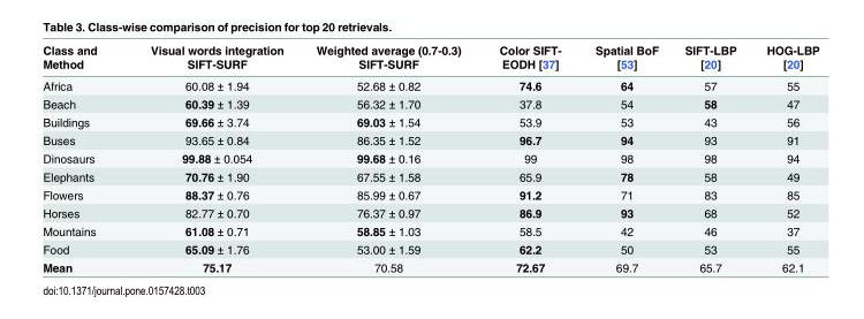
<table><thead><tr><td>Class and Method</td><td>Visual words integration SIFT-SURF</td><td>Weighted average (0.7-0.3) SIFT-SURF</td><td>Color SIFT- EODH [37]</td><td>Spatial BoF [53]</td><td>SIFT-LBP [20]</td><td>HOG-LBP [20]</td></tr></thead><tbody><tr><td>Africa</td><td>60.08 ± 1.94</td><td>52.68 ± 0.82</td><td>74.6</td><td>64</td><td>57</td><td>55</td></tr><tr><td>Beach</td><td>60.39 ± 1.39</td><td>56.32 ± 1.70</td><td>37.8</td><td>54</td><td>58</td><td>47</td></tr><tr><td>Buildings</td><td>69.66 ± 3.74</td><td>69.03 ± 1.54</td><td>53.9</td><td>53</td><td>43</td><td>56</td></tr><tr><td>Buses</td><td>93.65 ± 0.84</td><td>86.35 ± 1.52</td><td>96.7</td><td>94</td><td>93</td><td>91</td></tr><tr><td>Dinosaurs</td><td>99.88 ± 0.054</td><td>99.68 ± 0.16</td><td>99</td><td>98</td><td>98</td><td>94</td></tr><tr><td>Elephants</td><td>70.76 ± 1.90</td><td>67.55 ± 1.58</td><td>65.9</td><td>78</td><td>58</td><td>49</td></tr><tr><td>Flowers</td><td>88.37 ± 0.76</td><td>85.99 ± 0.67</td><td>91.2</td><td>71</td><td>83</td><td>85</td></tr><tr><td>Horses</td><td>82.77 ± 0.70</td><td>76.37 ± 0.97</td><td>86.9</td><td>93</td><td>68</td><td>52</td></tr><tr><td>Mountains</td><td>61.08 ± 0.71</td><td>58.85 ± 1.03</td><td>58.5</td><td>42</td><td>46</td><td>37</td></tr><tr><td>Food</td><td>65.09 ± 1.76</td><td>53.00 ± 1.59</td><td>62.2</td><td>50</td><td>53</td><td>55</td></tr><tr><td>Mean</td><td>75.17</td><td>70.58</td><td>72.67</td><td>69.7</td><td>65.7</td><td>62.1</td></tr></tbody></table>